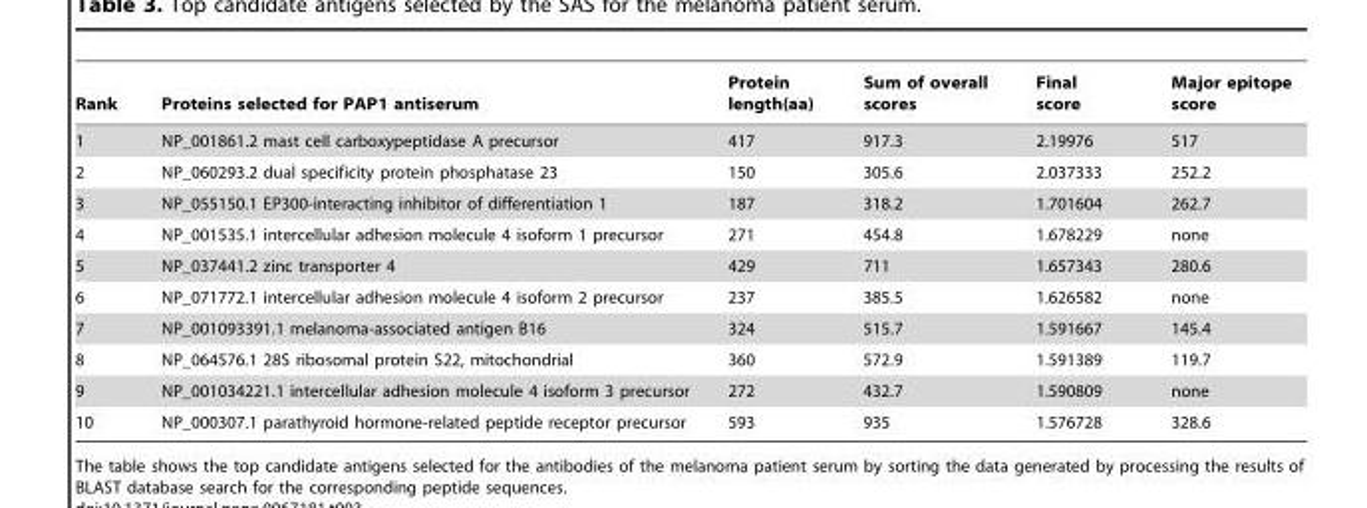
<table><thead><tr><td>Rank</td><td>Proteins selected for PAP1 antiserum</td><td>Protein length(aa)</td><td>Sum of overall scores</td><td>Final score</td><td>Major epitope score</td></tr></thead><tbody><tr><td>1</td><td>NP_001861.2 mast cell carboxypeptidase A precursor</td><td>417</td><td>917.3</td><td>2.19976</td><td>517</td></tr><tr><td>2</td><td>NP_060293.2 dual specificity protein phosphatase 23</td><td>150</td><td>305.6</td><td>2.037333</td><td>252.2</td></tr><tr><td>3</td><td>NP_055150.1 EP300-interacting inhibitor of differentiation 1</td><td>187</td><td>318.2</td><td>1.701604</td><td>262.7</td></tr><tr><td>4</td><td>NP_001535.1 intercellular adhesion molecule 4 isoform 1 precursor</td><td>271</td><td>454.8</td><td>1.678229</td><td>none</td></tr><tr><td>5</td><td>NP_037441.2 zinc transporter 4</td><td>429</td><td>711</td><td>1.657343</td><td>280.6</td></tr><tr><td>6</td><td>NP_071772.1 intercellular adhesion molecule 4 isoform 2 precursor</td><td>237</td><td>385.5</td><td>1.626582</td><td>none</td></tr><tr><td>7</td><td>NP_001093391.1 melanoma-associated antigen B16</td><td>324</td><td>515.7</td><td>1.591667</td><td>145.4</td></tr><tr><td>8</td><td>NP_064576.1 28S ribosomal protein S22, mitochondrial</td><td>360</td><td>572.9</td><td>1.591389</td><td>119.7</td></tr><tr><td>9</td><td>NP_001034221.1 intercellular adhesion molecule 4 isoform 3 precursor</td><td>272</td><td>432.7</td><td>1.590809</td><td>none</td></tr><tr><td>10</td><td>NP_000307.1 parathyroid hormone-related peptide receptor precursor</td><td>593</td><td>935</td><td>1.576728</td><td>328.6</td></tr></tbody></table>